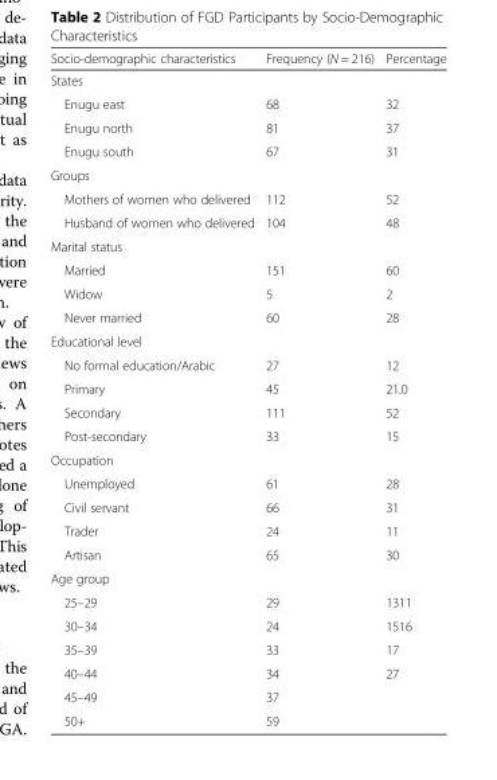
<table><thead><tr><td>Socio-demographic characteristics</td><td>Frequency (N = 216)</td><td>Percentage</td></tr></thead><tbody><tr><td colspan="3">States</td></tr><tr><td>Enugu east</td><td>68</td><td>32</td></tr><tr><td>Enugu north</td><td>81</td><td>37</td></tr><tr><td>Enugu south</td><td>67</td><td>31</td></tr><tr><td colspan="3">Groups</td></tr><tr><td>Mothers of women who delivered</td><td>112</td><td>52</td></tr><tr><td>Husband of women who delivered</td><td>104</td><td>48</td></tr><tr><td colspan="3">Marital status</td></tr><tr><td>Married</td><td>151</td><td>60</td></tr><tr><td>Widow</td><td>5</td><td>2</td></tr><tr><td>Never married</td><td>60</td><td>28</td></tr><tr><td colspan="3">Educational level</td></tr><tr><td>No formal education/Arabic</td><td>27</td><td>12</td></tr><tr><td>Primary</td><td>45</td><td>21.0</td></tr><tr><td>Secondary</td><td>111</td><td>52</td></tr><tr><td>Post-secondary</td><td>33</td><td>15</td></tr><tr><td colspan="3">Occupation</td></tr><tr><td>Unemployed</td><td>61</td><td>28</td></tr><tr><td>Civil servant</td><td>66</td><td>31</td></tr><tr><td>Trader</td><td>24</td><td>11</td></tr><tr><td>Artisan</td><td>65</td><td>30</td></tr><tr><td colspan="3">Age group</td></tr><tr><td>25–29</td><td>29</td><td>1311</td></tr><tr><td>30–34</td><td>24</td><td>1516</td></tr><tr><td>35–39</td><td>33</td><td>17</td></tr><tr><td>40–44</td><td>34</td><td rowspan="3">27</td></tr><tr><td>45–49</td><td>37</td></tr><tr><td>50+</td><td>59</td></tr></tbody></table>